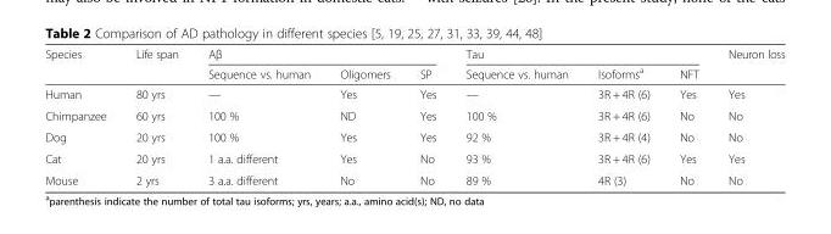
<table><thead><tr><td rowspan="2">Species</td><td rowspan="2">Life span</td><td colspan="3">Aβ</td><td colspan="3">Tau</td><td rowspan="2">Neuron loss</td></tr><tr><td>Sequence vs. human</td><td>Oligomers</td><td>SP</td><td>Sequence vs. human</td><td>Isoforms<sup>a</sup></td><td>NFT</td></tr></thead><tbody><tr><td>Human</td><td>80 yrs</td><td>—</td><td>Yes</td><td>Yes</td><td>—</td><td>3R + 4R (6)</td><td>Yes</td><td>Yes</td></tr><tr><td>Chimpanzee</td><td>60 yrs</td><td>100 %</td><td>ND</td><td>Yes</td><td>100 %</td><td>3R + 4R (6)</td><td>No</td><td>No</td></tr><tr><td>Dog</td><td>20 yrs</td><td>100 %</td><td>Yes</td><td>Yes</td><td>92 %</td><td>3R + 4R (4)</td><td>No</td><td>No</td></tr><tr><td>Cat</td><td>20 yrs</td><td>1 a.a. different</td><td>Yes</td><td>No</td><td>93 %</td><td>3R + 4R (6)</td><td>Yes</td><td>Yes</td></tr><tr><td>Mouse</td><td>2 yrs</td><td>3 a.a. different</td><td>No</td><td>No</td><td>89 %</td><td>4R (3)</td><td>No</td><td>No</td></tr></tbody></table>